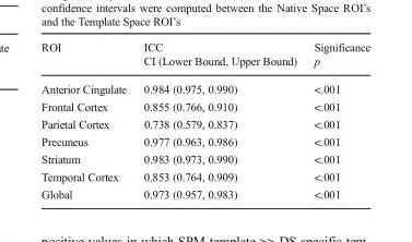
<table><thead><tr><td>ROI</td><td>ICC CI (Lower Bound, Upper Bound)</td><td>Significance p</td></tr></thead><tbody><tr><td>Anterior Cingulate</td><td>0.984 (0.975, 0.990)</td><td>&lt;.001</td></tr><tr><td>Frontal Cortex</td><td>0.855 (0.766, 0.910)</td><td>&lt;.001</td></tr><tr><td>Parietal Cortex</td><td>0.738 (0.579, 0.837)</td><td>&lt;.001</td></tr><tr><td>Precuneus</td><td>0.977 (0.963, 0.986)</td><td>&lt;.001</td></tr><tr><td>Striatum</td><td>0.983 (0.973, 0.990)</td><td>&lt;.001</td></tr><tr><td>Temporal Cortex</td><td>0.853 (0.764, 0.909)</td><td>&lt;.001</td></tr><tr><td>Global</td><td>0.973 (0.957, 0.983)</td><td>&lt;.001</td></tr></tbody></table>